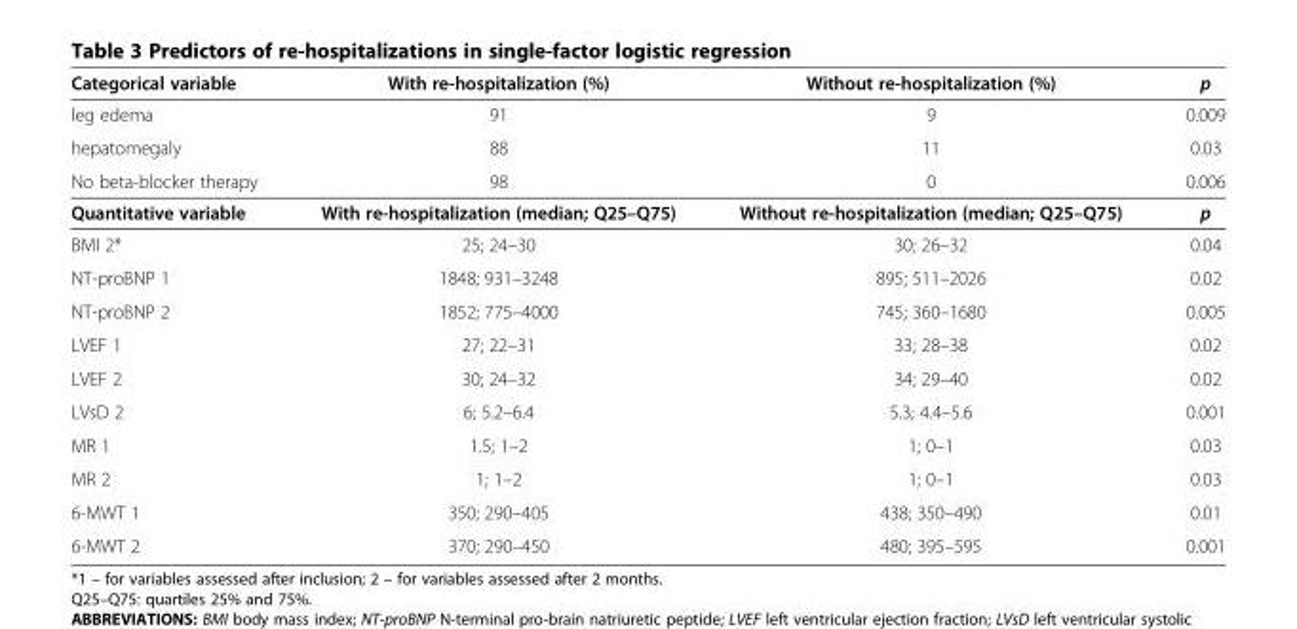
<table><thead><tr><td>Categorical variable</td><td>With re-hospitalization (%)</td><td>Without re-hospitalization (%)</td><td>p</td></tr></thead><tbody><tr><td>leg edema</td><td>91</td><td>9</td><td>0.009</td></tr><tr><td>hepatomegaly</td><td>88</td><td>11</td><td>0.03</td></tr><tr><td>No beta-blocker therapy</td><td>98</td><td>0</td><td>0.006</td></tr><tr><td>Quantitative variable</td><td>With re-hospitalization (median; Q25–Q75)</td><td>Without re-hospitalization (median; Q25–Q75)</td><td>p</td></tr><tr><td>BMI 2*</td><td>25; 24–30</td><td>30; 26–32</td><td>0.04</td></tr><tr><td>NT-proBNP 1</td><td>1848; 931–3248</td><td>895; 511–2026</td><td>0.02</td></tr><tr><td>NT-proBNP 2</td><td>1852; 775–4000</td><td>745; 360–1680</td><td>0.005</td></tr><tr><td>LVEF 1</td><td>27; 22–31</td><td>33; 28–38</td><td>0.02</td></tr><tr><td>LVEF 2</td><td>30; 24–32</td><td>34; 29–40</td><td>0.02</td></tr><tr><td>LVsD 2</td><td>6; 5.2–6.4</td><td>5.3; 4.4–5.6</td><td>0.001</td></tr><tr><td>MR 1</td><td>1.5; 1–2</td><td>1; 0–1</td><td>0.03</td></tr><tr><td>MR 2</td><td>1; 1–2</td><td>1; 0–1</td><td>0.03</td></tr><tr><td>6-MWT 1</td><td>350; 290–405</td><td>438; 350–490</td><td>0.01</td></tr><tr><td>6-MWT 2</td><td>370; 290–450</td><td>480; 395–595</td><td>0.001</td></tr></tbody></table>